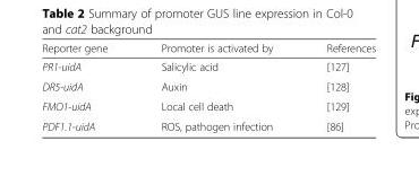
<table><thead><tr><td>Reporter gene</td><td>Promoter is activated by</td><td>References</td></tr></thead><tbody><tr><td>PR1-uidA</td><td>Salicylic acid</td><td>[127]</td></tr><tr><td>DR5-uidA</td><td>Auxin</td><td>[128]</td></tr><tr><td>FMO1-uidA</td><td>Local cell death</td><td>[129]</td></tr><tr><td>PDF1.1-uidA</td><td>ROS, pathogen infection</td><td>[86]</td></tr></tbody></table>